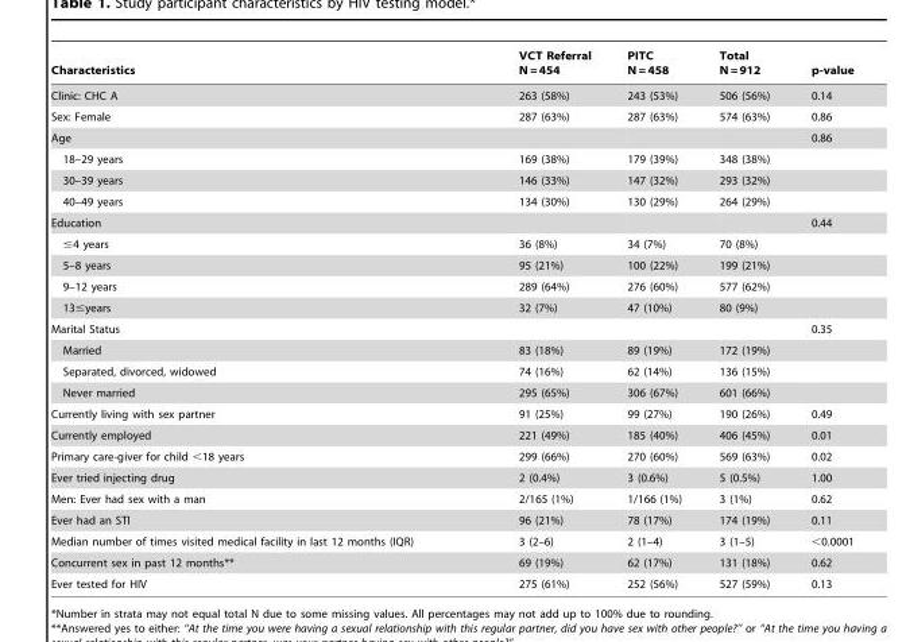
<table><thead><tr><td>Characteristics</td><td>VCT Referral N = 454</td><td>PITC N = 458</td><td>Total N = 912</td><td>p-value</td></tr></thead><tbody><tr><td>Clinic: CHC A</td><td>263 (58%)</td><td>243 (53%)</td><td>506 (56%)</td><td>0.14</td></tr><tr><td>Sex: Female</td><td>287 (63%)</td><td>287 (63%)</td><td>574 (63%)</td><td>0.86</td></tr><tr><td>Age</td><td></td><td></td><td></td><td>0.86</td></tr><tr><td>18–29 years</td><td>169 (38%)</td><td>179 (39%)</td><td>348 (38%)</td><td></td></tr><tr><td>30–39 years</td><td>146 (33%)</td><td>147 (32%)</td><td>293 (32%)</td><td></td></tr><tr><td>40–49 years</td><td>134 (30%)</td><td>130 (29%)</td><td>264 (29%)</td><td></td></tr><tr><td>Education</td><td></td><td></td><td></td><td>0.44</td></tr><tr><td>≤4 years</td><td>36 (8%)</td><td>34 (7%)</td><td>70 (8%)</td><td></td></tr><tr><td>5–8 years</td><td>95 (21%)</td><td>100 (22%)</td><td>199 (21%)</td><td></td></tr><tr><td>9–12 years</td><td>289 (64%)</td><td>276 (60%)</td><td>577 (62%)</td><td></td></tr><tr><td>13≤years</td><td>32 (7%)</td><td>47 (10%)</td><td>80 (9%)</td><td></td></tr><tr><td>Marital Status</td><td></td><td></td><td></td><td>0.35</td></tr><tr><td>Married</td><td>83 (18%)</td><td>89 (19%)</td><td>172 (19%)</td><td></td></tr><tr><td>Separated, divorced, widowed</td><td>74 (16%)</td><td>62 (14%)</td><td>136 (15%)</td><td></td></tr><tr><td>Never married</td><td>295 (65%)</td><td>306 (67%)</td><td>601 (66%)</td><td></td></tr><tr><td>Currently living with sex partner</td><td>91 (25%)</td><td>99 (27%)</td><td>190 (26%)</td><td>0.49</td></tr><tr><td>Currently employed</td><td>221 (49%)</td><td>185 (40%)</td><td>406 (45%)</td><td>0.01</td></tr><tr><td>Primary care-giver for child &lt;18 years</td><td>299 (66%)</td><td>270 (60%)</td><td>569 (63%)</td><td>0.02</td></tr><tr><td>Ever tried injecting drug</td><td>2 (0.4%)</td><td>3 (0.6%)</td><td>5 (0.5%)</td><td>1.00</td></tr><tr><td>Men: Ever had sex with a man</td><td>2/165 (1%)</td><td>1/166 (1%)</td><td>3 (1%)</td><td>0.62</td></tr><tr><td>Ever had an STI</td><td>96 (21%)</td><td>78 (17%)</td><td>174 (19%)</td><td>0.11</td></tr><tr><td>Median number of times visited medical facility in last 12 months (IQR)</td><td>3 (2–6)</td><td>2 (1–4)</td><td>3 (1–5)</td><td>&lt;0.0001</td></tr><tr><td>Concurrent sex in past 12 months**</td><td>69 (19%)</td><td>62 (17%)</td><td>131 (18%)</td><td>0.62</td></tr><tr><td>Ever tested for HIV</td><td>275 (61%)</td><td>252 (56%)</td><td>527 (59%)</td><td>0.13</td></tr></tbody></table>